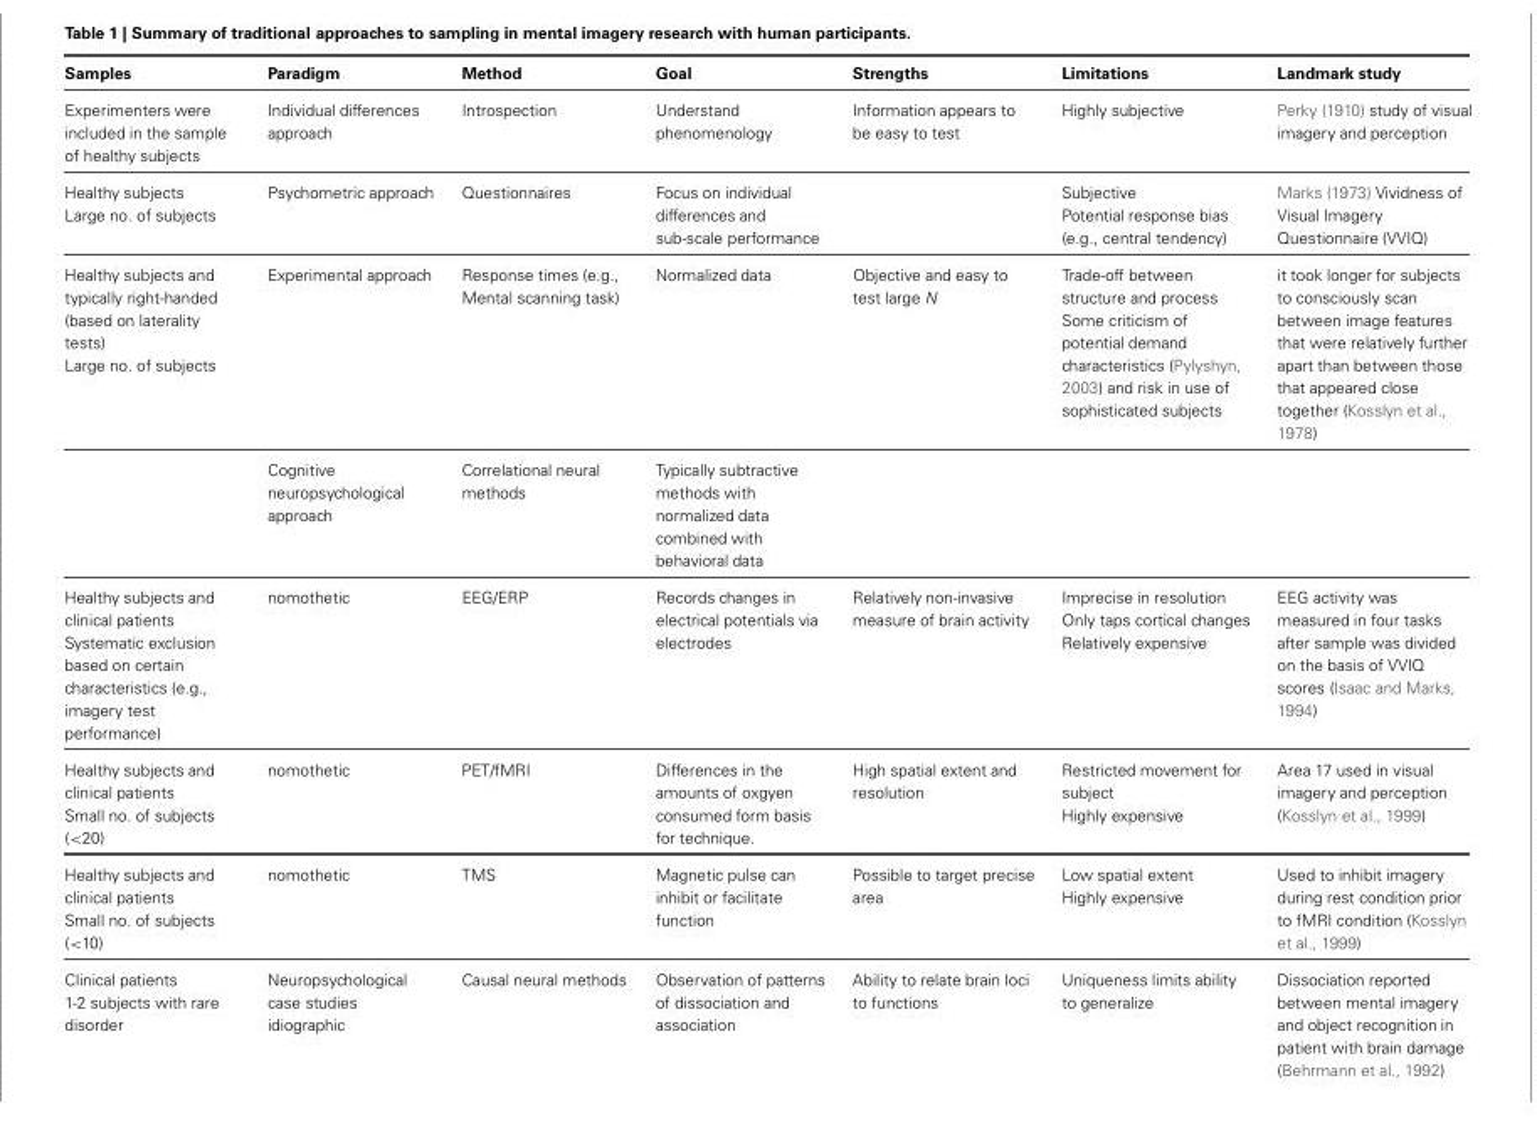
<table><thead><tr><td>Samples</td><td>Paradigm</td><td>Method</td><td>Goal</td><td>Strengths</td><td>Limitations</td><td>Landmark study</td></tr></thead><tbody><tr><td>Experimenters were included in the sample of healthy subjects</td><td>Individual differences approach</td><td>Introspection</td><td>Understand phenomenology</td><td>Information appears to be easy to test</td><td>Highly subjective</td><td>Perky (1910) study of visual imagery and perception</td></tr><tr><td>Healthy subjects Large no. of subjects</td><td>Psychometric approach</td><td>Questionnaires</td><td>Focus on individual differences and sub-scale performance</td><td></td><td>Subjective Potential response bias (e.g., central tendency)</td><td>Marks (1973) Vividness of Visual Imagery Questionnaire (VVIQ)</td></tr><tr><td rowspan="2">Healthy subjects and typically right-handed (based on laterality tests) Large no. of subjects</td><td>Experimental approach</td><td>Response times (e.g., Mental scanning task)</td><td>Normalized data</td><td>Objective and easy to test large N</td><td>Trade-off between structure and process Some criticism of potential demand characteristics (Pylyshyn, 2003) and risk in use of sophisticated subjects</td><td>it took longer for subjects to consciously scan between image features that were relatively further apart than between those that appeared close together (Kosslyn et al., 1978)</td></tr><tr><td>Cognitive neuropsychological approach</td><td>Correlational neural methods</td><td>Typically subtractive methods with normalized data combined with behavioral data</td><td></td><td></td><td></td></tr><tr><td>Healthy subjects and clinical patients Systematic exclusion based on certain characteristics (e.g., imagery test performance)</td><td>nomothetic</td><td>EEG/ERP</td><td>Records changes in electrical potentials via electrodes</td><td>Relatively non-invasive measure of brain activity</td><td>Imprecise in resolution Only taps cortical changes Relatively expensive</td><td>EEG activity was measured in four tasks after sample was divided on the basis of VVIQ scores (Isaac and Marks, 1994)</td></tr><tr><td>Healthy subjects and clinical patients Small no. of subjects (&lt;20)</td><td>nomothetic</td><td>PET/fMRI</td><td>Differences in the amounts of oxgyen consumed form basis for technique.</td><td>High spatial extent and resolution</td><td>Restricted movement for subject Highly expensive</td><td>Area 17 used in visual imagery and perception (Kosslyn et al., 1999)</td></tr><tr><td>Healthy subjects and clinical patients Small no. of subjects (&lt;10)</td><td>nomothetic</td><td>TMS</td><td>Magnetic pulse can inhibit or facilitate function</td><td>Possible to target precise area</td><td>Low spatial extent Highly expensive</td><td>Used to inhibit imagery during rest condition prior to fMRI condition (Kosslyn et al., 1999)</td></tr><tr><td>Clinical patients 1-2 subjects with rare disorder</td><td>Neuropsychological case studies idiographic</td><td>Causal neural methods</td><td>Observation of patterns of dissociation and association</td><td>Ability to relate brain loci to functions</td><td>Uniqueness limits ability to generalize</td><td>Dissociation reported between mental imagery and object recognition in patient with brain damage (Behrmann et al., 1992)</td></tr></tbody></table>